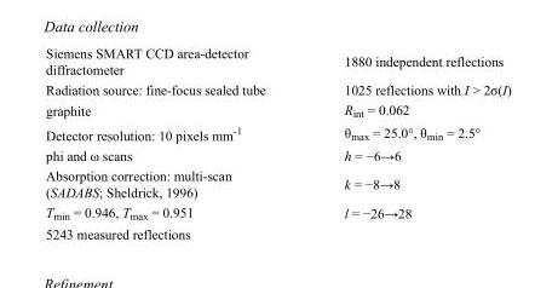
<table><tbody><tr><td>Siemens SMART CCD area-detector diffractometer</td><td>1880 independent reflections</td></tr><tr><td>Radiation source: fine-focus sealed tube</td><td>1025 reflections with I &gt; 2σ(I)</td></tr><tr><td>graphite</td><td>R<sub>int</sub> = 0.062</td></tr><tr><td>Detector resolution: 10 pixels mm<sup>-1</sup></td><td>θ<sub>max</sub> = 25.0°, θ<sub>min</sub> = 2.5°</td></tr><tr><td>phi and ω scans</td><td>h = −6→6</td></tr><tr><td>Absorption correction: multi-scan (SADABS; Sheldrick, 1996)</td><td>k = −8→8</td></tr><tr><td>T<sub>min</sub> = 0.946, T<sub>max</sub> = 0.951</td><td>l = −26→28</td></tr><tr><td>5243 measured reflections</td><td></td></tr></tbody></table>